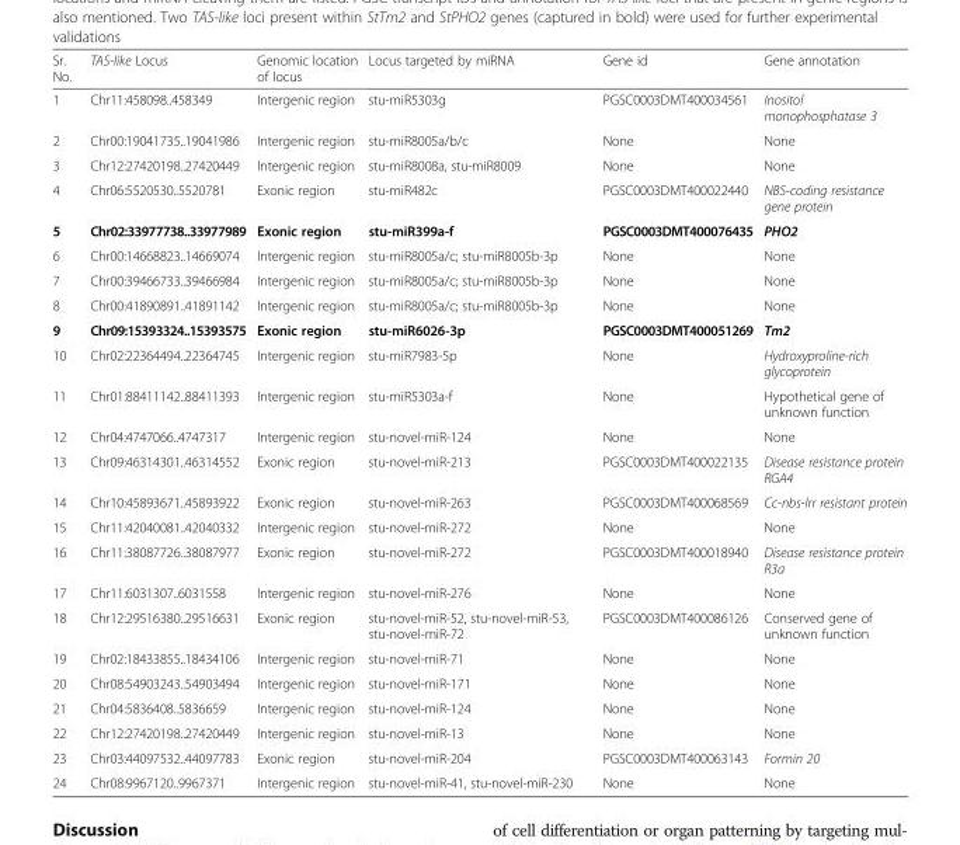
<table><thead><tr><td>Sr. No.</td><td>TAS-like Locus</td><td>Genomic location of locus</td><td>Locus targeted by miRNA</td><td>Gene id</td><td>Gene annotation</td></tr></thead><tbody><tr><td>1</td><td>Chr11:458098..458349</td><td>Intergenic region</td><td>stu-miR5303g</td><td>PGSC0003DMT400034561</td><td>Inositol monophosphatase 3</td></tr><tr><td>2</td><td>Chr00:19041735..19041986</td><td>Intergenic region</td><td>stu-miR8005a/b/c</td><td>None</td><td>None</td></tr><tr><td>3</td><td>Chr12:27420198..27420449</td><td>Intergenic region</td><td>stu-miR8008a, stu-miR8009</td><td>None</td><td>None</td></tr><tr><td>4</td><td>Chr06:5520530..5520781</td><td>Exonic region</td><td>stu-miR482c</td><td>PGSC0003DMT400022440</td><td>NBS-coding resistance gene protein</td></tr><tr><td>5</td><td>Chr02:33977738..33977989</td><td>Exonic region</td><td>stu-miR399a-f</td><td>PGSC0003DMT400076435</td><td>PHO2</td></tr><tr><td>6</td><td>Chr00:14668823..14669074</td><td>Intergenic region</td><td>stu-miR8005a/c; stu-miR8005b-3p</td><td>None</td><td>None</td></tr><tr><td>7</td><td>Chr00:39466733..39466984</td><td>Intergenic region</td><td>stu-miR8005a/c; stu-miR8005b-3p</td><td>None</td><td>None</td></tr><tr><td>8</td><td>Chr00:41890891..41891142</td><td>Intergenic region</td><td>stu-miR8005a/c; stu-miR8005b-3p</td><td>None</td><td>None</td></tr><tr><td>9</td><td>Chr09:15393324..15393575</td><td>Exonic region</td><td>stu-miR6026-3p</td><td>PGSC0003DMT400051269</td><td>Tm2</td></tr><tr><td>10</td><td>Chr02:22364494..22364745</td><td>Intergenic region</td><td>stu-miR7983-5p</td><td>None</td><td>Hydroxyproline-rich glycoprotein</td></tr><tr><td>11</td><td>Chr01:88411142..88411393</td><td>Intergenic region</td><td>stu-miR5303a-f</td><td>None</td><td>Hypothetical gene of unknown function</td></tr><tr><td>12</td><td>Chr04:4747066..4747317</td><td>Intergenic region</td><td>stu-novel-miR-124</td><td>None</td><td>None</td></tr><tr><td>13</td><td>Chr09:46314301..46314552</td><td>Exonic region</td><td>stu-novel-miR-213</td><td>PGSC0003DMT400022135</td><td>Disease resistance protein RGA4</td></tr><tr><td>14</td><td>Chr10:45893671..45893922</td><td>Exonic region</td><td>stu-novel-miR-263</td><td>PGSC0003DMT400068569</td><td>Cc-nbs-lrr resistant protein</td></tr><tr><td>15</td><td>Chr11:42040081..42040332</td><td>Intergenic region</td><td>stu-novel-miR-272</td><td>None</td><td>None</td></tr><tr><td>16</td><td>Chr11:38087726..38087977</td><td>Exonic region</td><td>stu-novel-miR-272</td><td>PGSC0003DMT400018940</td><td>Disease resistance protein R3a</td></tr><tr><td>17</td><td>Chr11:6031307..6031558</td><td>Intergenic region</td><td>stu-novel-miR-276</td><td>None</td><td>None</td></tr><tr><td>18</td><td>Chr12:29516380..29516631</td><td>Exonic region</td><td>stu-novel-miR-52, stu-novel-miR-53, stu-novel-miR-72</td><td>PGSC0003DMT400086126</td><td>Conserved gene of unknown function</td></tr><tr><td>19</td><td>Chr02:18433855..18434106</td><td>Intergenic region</td><td>stu-novel-miR-71</td><td>None</td><td>None</td></tr><tr><td>20</td><td>Chr08:54903243..54903494</td><td>Intergenic region</td><td>stu-novel-miR-171</td><td>None</td><td>None</td></tr><tr><td>21</td><td>Chr04:5836408..5836659</td><td>Intergenic region</td><td>stu-novel-miR-124</td><td>None</td><td>None</td></tr><tr><td>22</td><td>Chr12:27420198..27420449</td><td>Intergenic region</td><td>stu-novel-miR-13</td><td>None</td><td>None</td></tr><tr><td>23</td><td>Chr03:44097532..44097783</td><td>Exonic region</td><td>stu-novel-miR-204</td><td>PGSC0003DMT400063143</td><td>Formin 20</td></tr><tr><td>24</td><td>Chr08:9967120..9967371</td><td>Intergenic region</td><td>stu-novel-miR-41, stu-novel-miR-230</td><td>None</td><td>None</td></tr></tbody></table>